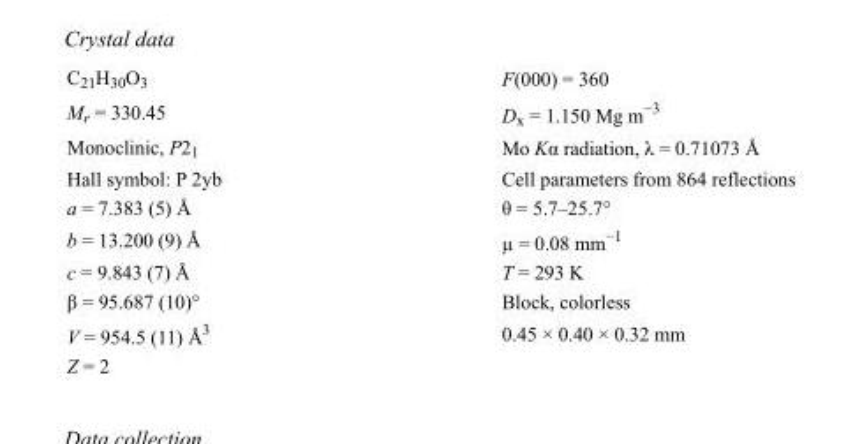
<table><tbody><tr><td>C<sub>21</sub>H<sub>30</sub>O<sub>3</sub></td><td>F(000) = 360</td></tr><tr><td>M<sub>r</sub> = 330.45</td><td>D<sub>x</sub> = 1.150 Mg m<sup>−3</sup></td></tr><tr><td>Monoclinic, P2<sub>1</sub></td><td>Mo Kα radiation, λ = 0.71073 Å</td></tr><tr><td>Hall symbol: P 2yb</td><td>Cell parameters from 864 reflections</td></tr><tr><td>a = 7.383 (5) Å</td><td>θ = 5.7–25.7°</td></tr><tr><td>b = 13.200 (9) Å</td><td>µ = 0.08 mm<sup>−1</sup></td></tr><tr><td>c = 9.843 (7) Å</td><td>T = 293 K</td></tr><tr><td>β = 95.687 (10)°</td><td>Block, colorless</td></tr><tr><td>V = 954.5 (11) Å<sup>3</sup></td><td>0.45 × 0.40 × 0.32 mm</td></tr><tr><td>Z = 2</td><td></td></tr></tbody></table>